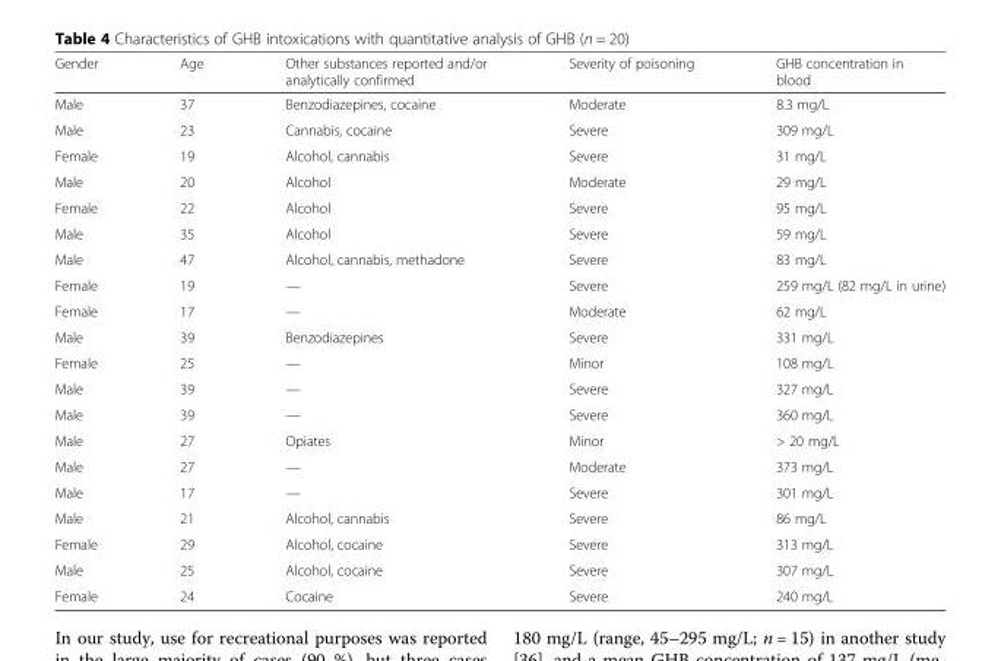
<table><thead><tr><td>Gender</td><td>Age</td><td>Other substances reported and/or analytically confirmed</td><td>Severity of poisoning</td><td>GHB concentration in blood</td></tr></thead><tbody><tr><td>Male</td><td>37</td><td>Benzodiazepines, cocaine</td><td>Moderate</td><td>8.3 mg/L</td></tr><tr><td>Male</td><td>23</td><td>Cannabis, cocaine</td><td>Severe</td><td>309 mg/L</td></tr><tr><td>Female</td><td>19</td><td>Alcohol, cannabis</td><td>Severe</td><td>31 mg/L</td></tr><tr><td>Male</td><td>20</td><td>Alcohol</td><td>Moderate</td><td>29 mg/L</td></tr><tr><td>Female</td><td>22</td><td>Alcohol</td><td>Severe</td><td>95 mg/L</td></tr><tr><td>Male</td><td>35</td><td>Alcohol</td><td>Severe</td><td>59 mg/L</td></tr><tr><td>Male</td><td>47</td><td>Alcohol, cannabis, methadone</td><td>Severe</td><td>83 mg/L</td></tr><tr><td>Female</td><td>19</td><td>—</td><td>Severe</td><td>259 mg/L (82 mg/L in urine)</td></tr><tr><td>Female</td><td>17</td><td>—</td><td>Moderate</td><td>62 mg/L</td></tr><tr><td>Male</td><td>39</td><td>Benzodiazepines</td><td>Severe</td><td>331 mg/L</td></tr><tr><td>Female</td><td>25</td><td>—</td><td>Minor</td><td>108 mg/L</td></tr><tr><td>Male</td><td>39</td><td>—</td><td>Severe</td><td>327 mg/L</td></tr><tr><td>Male</td><td>39</td><td>—</td><td>Severe</td><td>360 mg/L</td></tr><tr><td>Male</td><td>27</td><td>Opiates</td><td>Minor</td><td>&gt; 20 mg/L</td></tr><tr><td>Male</td><td>27</td><td>—</td><td>Moderate</td><td>373 mg/L</td></tr><tr><td>Male</td><td>17</td><td>—</td><td>Severe</td><td>301 mg/L</td></tr><tr><td>Male</td><td>21</td><td>Alcohol, cannabis</td><td>Severe</td><td>86 mg/L</td></tr><tr><td>Female</td><td>29</td><td>Alcohol, cocaine</td><td>Severe</td><td>313 mg/L</td></tr><tr><td>Male</td><td>25</td><td>Alcohol, cocaine</td><td>Severe</td><td>307 mg/L</td></tr><tr><td>Female</td><td>24</td><td>Cocaine</td><td>Severe</td><td>240 mg/L</td></tr></tbody></table>